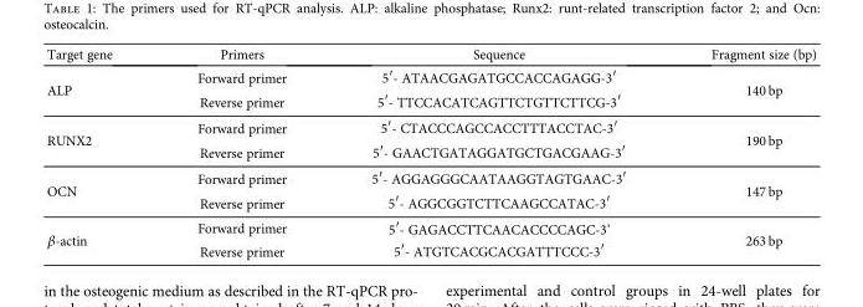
<table><thead><tr><td>Target gene</td><td>Primers</td><td>Sequence</td><td>Fragment size (bp)</td></tr></thead><tbody><tr><td rowspan="2">ALP</td><td>Forward primer</td><td>5′- ATAACGAGATGCCACCAGAGG-3′</td><td rowspan="2">140 bp</td></tr><tr><td>Reverse primer</td><td>5′- TTCCACATCAGTTCTGTTCTTCG-3′</td></tr><tr><td rowspan="2">RUNX2</td><td>Forward primer</td><td>5′- CTACCCAGCCACCTTTACCTAC-3′</td><td rowspan="2">190 bp</td></tr><tr><td>Reverse primer</td><td>5′- GAACTGATAGGATGCTGACGAAG-3′</td></tr><tr><td rowspan="2">OCN</td><td>Forward primer</td><td>5′- AGGAGGGCAATAAGGTAGTGAAC-3′</td><td rowspan="2">147 bp</td></tr><tr><td>Reverse primer</td><td>5′- AGGCGGTCTTCAAGCCATAC-3′</td></tr><tr><td rowspan="2">β-actin</td><td>Forward primer</td><td>5′- GAGACCTTCAACACCCCAGC-3’</td><td rowspan="2">263 bp</td></tr><tr><td>Reverse primer</td><td>5′- ATGTCACGCACGATTTCCC-3′</td></tr></tbody></table>